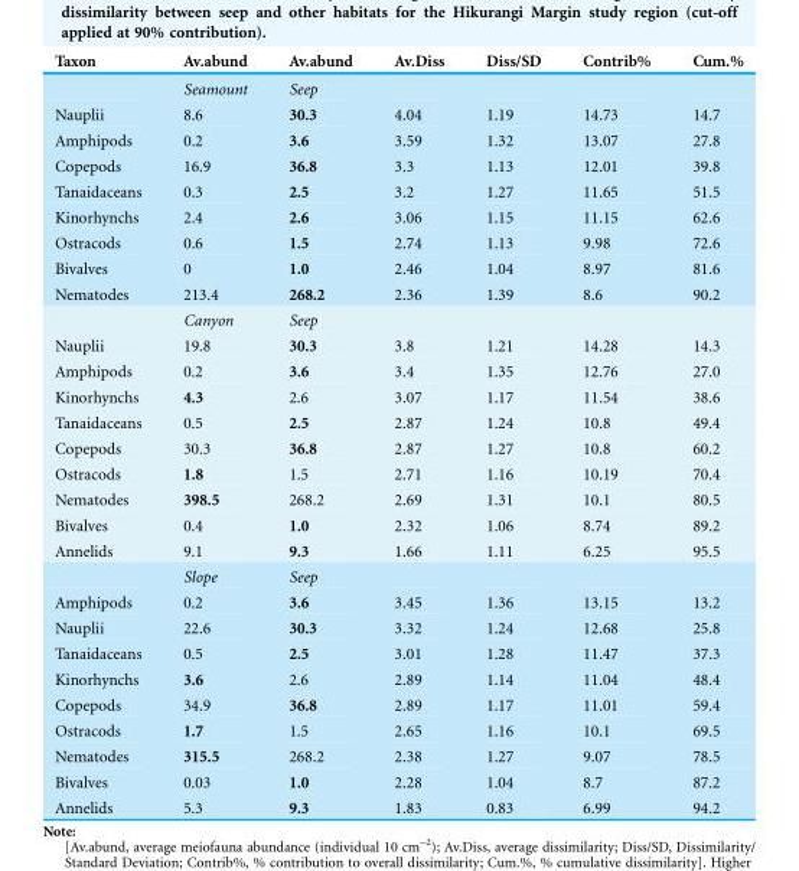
<table><thead><tr><td>Taxon</td><td>Av.abund</td><td>Av.abund</td><td>Av.Diss</td><td>Diss/SD</td><td>Contrib%</td><td>Cum.%</td></tr></thead><tbody><tr><td></td><td>Seamount</td><td>Seep</td><td></td><td></td><td></td><td></td></tr><tr><td>Nauplii</td><td>8.6</td><td>30.3</td><td>4.04</td><td>1.19</td><td>14.73</td><td>14.7</td></tr><tr><td>Amphipods</td><td>0.2</td><td>3.6</td><td>3.59</td><td>1.32</td><td>13.07</td><td>27.8</td></tr><tr><td>Copepods</td><td>16.9</td><td>36.8</td><td>3.3</td><td>1.13</td><td>12.01</td><td>39.8</td></tr><tr><td>Tanaidaceans</td><td>0.3</td><td>2.5</td><td>3.2</td><td>1.27</td><td>11.65</td><td>51.5</td></tr><tr><td>Kinorhynchs</td><td>2.4</td><td>2.6</td><td>3.06</td><td>1.15</td><td>11.15</td><td>62.6</td></tr><tr><td>Ostracods</td><td>0.6</td><td>1.5</td><td>2.74</td><td>1.13</td><td>9.98</td><td>72.6</td></tr><tr><td>Bivalves</td><td>0</td><td>1.0</td><td>2.46</td><td>1.04</td><td>8.97</td><td>81.6</td></tr><tr><td rowspan="2">Nematodes</td><td>213.4</td><td>268.2</td><td>2.36</td><td>1.39</td><td>8.6</td><td>90.2</td></tr><tr><td>Canyon</td><td>Seep</td><td></td><td></td><td></td><td></td></tr><tr><td>Nauplii</td><td>19.8</td><td>30.3</td><td>3.8</td><td>1.21</td><td>14.28</td><td>14.3</td></tr><tr><td>Amphipods</td><td>0.2</td><td>3.6</td><td>3.4</td><td>1.35</td><td>12.76</td><td>27.0</td></tr><tr><td>Kinorhynchs</td><td>4.3</td><td>2.6</td><td>3.07</td><td>1.17</td><td>11.54</td><td>38.6</td></tr><tr><td>Tanaidaceans</td><td>0.5</td><td>2.5</td><td>2.87</td><td>1.24</td><td>10.8</td><td>49.4</td></tr><tr><td>Copepods</td><td>30.3</td><td>36.8</td><td>2.87</td><td>1.27</td><td>10.8</td><td>60.2</td></tr><tr><td>Ostracods</td><td>1.8</td><td>1.5</td><td>2.71</td><td>1.16</td><td>10.19</td><td>70.4</td></tr><tr><td>Nematodes</td><td>398.5</td><td>268.2</td><td>2.69</td><td>1.31</td><td>10.1</td><td>80.5</td></tr><tr><td>Bivalves</td><td>0.4</td><td>1.0</td><td>2.32</td><td>1.06</td><td>8.74</td><td>89.2</td></tr><tr><td rowspan="2">Annelids</td><td>9.1</td><td>9.3</td><td>1.66</td><td>1.11</td><td>6.25</td><td>95.5</td></tr><tr><td>Slope</td><td>Seep</td><td></td><td></td><td></td><td></td></tr><tr><td>Amphipods</td><td>0.2</td><td>3.6</td><td>3.45</td><td>1.36</td><td>13.15</td><td>13.2</td></tr><tr><td>Nauplii</td><td>22.6</td><td>30.3</td><td>3.32</td><td>1.24</td><td>12.68</td><td>25.8</td></tr><tr><td>Tanaidaceans</td><td>0.5</td><td>2.5</td><td>3.01</td><td>1.28</td><td>11.47</td><td>37.3</td></tr><tr><td>Kinorhynchs</td><td>3.6</td><td>2.6</td><td>2.89</td><td>1.14</td><td>11.04</td><td>48.4</td></tr><tr><td>Copepods</td><td>34.9</td><td>36.8</td><td>2.89</td><td>1.17</td><td>11.01</td><td>59.4</td></tr><tr><td>Ostracods</td><td>1.7</td><td>1.5</td><td>2.65</td><td>1.16</td><td>10.1</td><td>69.5</td></tr><tr><td>Nematodes</td><td>315.5</td><td>268.2</td><td>2.38</td><td>1.27</td><td>9.07</td><td>78.5</td></tr><tr><td>Bivalves</td><td>0.03</td><td>1.0</td><td>2.28</td><td>1.04</td><td>8.7</td><td>87.2</td></tr><tr><td>Annelids</td><td>5.3</td><td>9.3</td><td>1.83</td><td>0.83</td><td>6.99</td><td>94.2</td></tr></tbody></table>